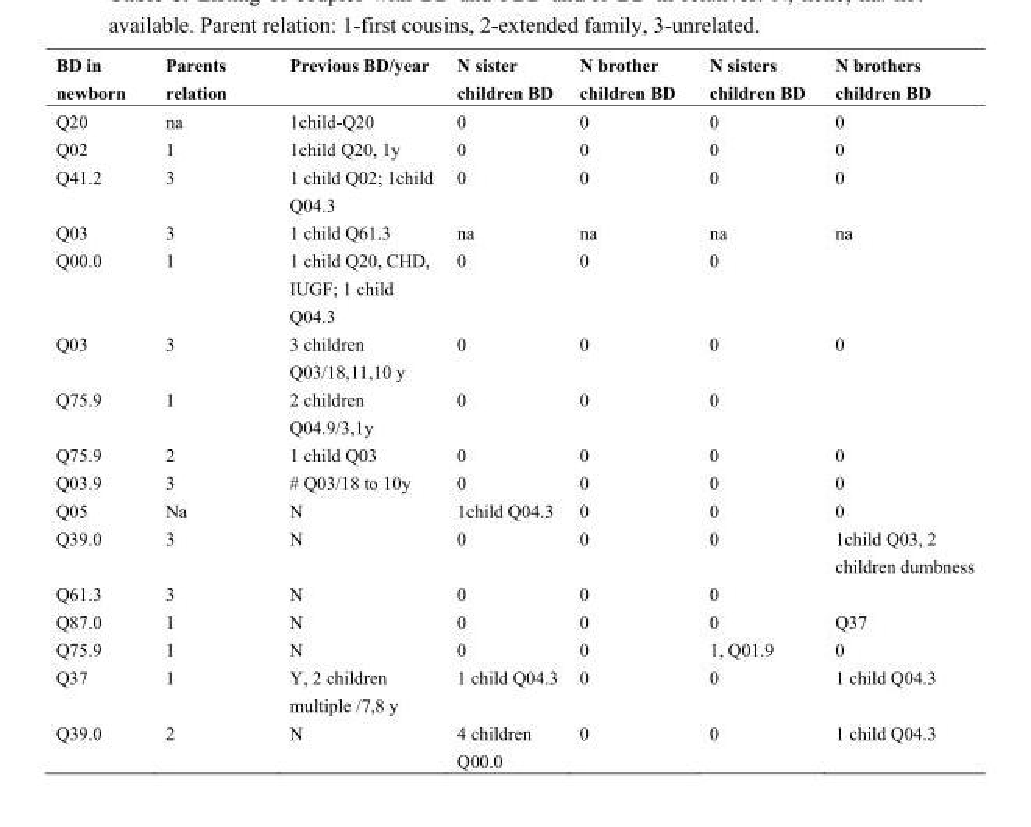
<table><thead><tr><td>BD in newborn</td><td>Parents relation</td><td>Previous BD/year</td><td>N sister children BD</td><td>N brother children BD</td><td>N sisters children BD</td><td>N brothers children BD</td></tr></thead><tbody><tr><td>Q20</td><td>na</td><td>1child-Q20</td><td>0</td><td>0</td><td>0</td><td>0</td></tr><tr><td>Q02</td><td>1</td><td>1child Q20, 1y</td><td>0</td><td>0</td><td>0</td><td>0</td></tr><tr><td>Q41.2</td><td>3</td><td>1 child Q02; 1child Q04.3</td><td>0</td><td>0</td><td>0</td><td>0</td></tr><tr><td>Q03</td><td>3</td><td>1 child Q61.3</td><td>na</td><td>na</td><td>na</td><td>na</td></tr><tr><td>Q00.0</td><td>1</td><td>1 child Q20, CHD, IUGF; 1 child Q04.3</td><td>0</td><td>0</td><td>0</td><td></td></tr><tr><td>Q03</td><td>3</td><td>3 children Q03/18,11,10 y</td><td>0</td><td>0</td><td>0</td><td>0</td></tr><tr><td>Q75.9</td><td>1</td><td>2 children Q04.9/3,1y</td><td>0</td><td>0</td><td>0</td><td></td></tr><tr><td>Q75.9</td><td>2</td><td>1 child Q03</td><td>0</td><td>0</td><td>0</td><td>0</td></tr><tr><td>Q03.9</td><td>3</td><td># Q03/18 to 10y</td><td>0</td><td>0</td><td>0</td><td>0</td></tr><tr><td>Q05</td><td>Na</td><td>N</td><td>1child Q04.3</td><td>0</td><td>0</td><td>0</td></tr><tr><td>Q39.0</td><td>3</td><td>N</td><td>0</td><td>0</td><td>0</td><td>1child Q03, 2 children dumbness</td></tr><tr><td>Q61.3</td><td>3</td><td>N</td><td>0</td><td>0</td><td>0</td><td></td></tr><tr><td>Q87.0</td><td>1</td><td>N</td><td>0</td><td>0</td><td>0</td><td>Q37</td></tr><tr><td>Q75.9</td><td>1</td><td>N</td><td>0</td><td>0</td><td>1, Q01.9</td><td>0</td></tr><tr><td>Q37</td><td>1</td><td>Y, 2 children multiple /7,8 y</td><td>1 child Q04.3</td><td>0</td><td>0</td><td>1 child Q04.3</td></tr><tr><td>Q39.0</td><td>2</td><td>N</td><td>4 children Q00.0</td><td>0</td><td>0</td><td>1 child Q04.3</td></tr></tbody></table>